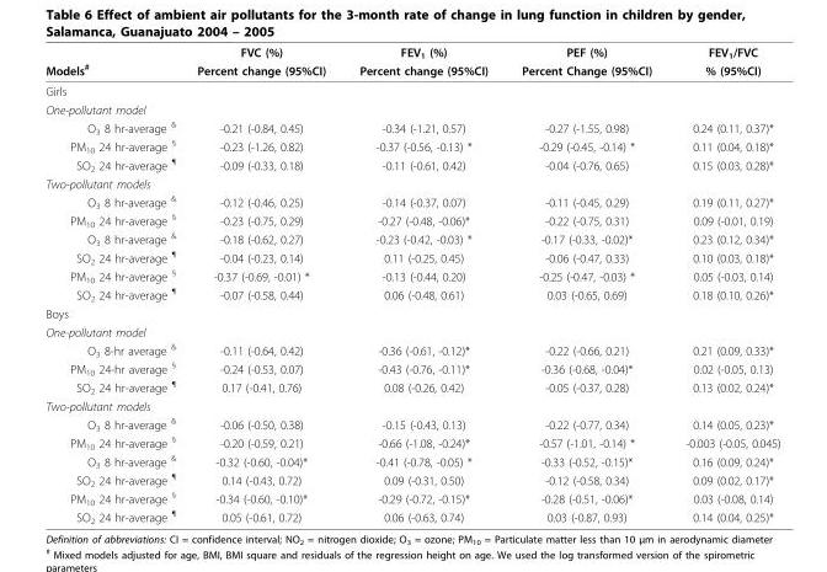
<table><thead><tr><td rowspan="2">Models<sup>#</sup></td><td rowspan="2">FVC (%) Percent change (95%CI)</td><td rowspan="2">FEV1 (%) Percent change (95%CI)</td><td rowspan="2">PEF (%) Percent Change (95%CI)</td><td rowspan="2">FEV<sub>1</sub>/FVC % (95%CI)</td></tr><tr></tr></thead><tbody><tr><td colspan="5">Girls</td></tr><tr><td colspan="5">One-pollutant model</td></tr><tr><td>O<sub>3</sub> 8 hr-average <sup>&amp;</sup></td><td>-0.21 (-0.84, 0.45)</td><td>-0.34 (-1.21, 0.57)</td><td>-0.27 (-1.55, 0.98)</td><td>0.24 (0.11, 0.37)*</td></tr><tr><td>PM<sub>10</sub> 24 hr-average <sup>§</sup></td><td>-0.23 (-1.26, 0.82)</td><td>-0.37 (-0.56, -0.13) *</td><td>-0.29 (-0.45, -0.14) *</td><td>0.11 (0.04, 0.18)*</td></tr><tr><td>SO<sub>2</sub> 24 hr-average <sup>¶</sup></td><td>-0.09 (-0.33, 0.18)</td><td>-0.11 (-0.61, 0.42)</td><td>-0.04 (-0.76, 0.65)</td><td>0.15 (0.03, 0.28)*</td></tr><tr><td colspan="5">Two-pollutant models</td></tr><tr><td>O<sub>3</sub> 8 hr-average <sup>&amp;</sup></td><td>-0.12 (-0.46, 0.25)</td><td>-0.14 (-0.37, 0.07)</td><td>-0.11 (-0.45, 0.29)</td><td>0.19 (0.11, 0.27)*</td></tr><tr><td>PM<sub>10</sub> 24 hr-average <sup>§</sup></td><td>-0.23 (-0.75, 0.29)</td><td>-0.27 (-0.48, -0.06)*</td><td>-0.22 (-0.75, 0.31)</td><td>0.09 (-0.01, 0.19)</td></tr><tr><td>O<sub>3</sub> 8 hr-average <sup>&amp;</sup></td><td>-0.18 (-0.62, 0.27)</td><td>-0.23 (-0.42, -0.03) *</td><td>-0.17 (-0.33, -0.02)*</td><td>0.23 (0.12, 0.34)*</td></tr><tr><td>SO<sub>2</sub> 24 hr-average <sup>¶</sup></td><td>-0.04 (-0.23, 0.14)</td><td>0.11 (-0.25, 0.45)</td><td>-0.06 (-0.47, 0.33)</td><td>0.10 (0.03, 0.18)*</td></tr><tr><td>PM<sub>10</sub> 24 hr-average <sup>§</sup></td><td>-0.37 (-0.69, -0.01) *</td><td>-0.13 (-0.44, 0.20)</td><td>-0.25 (-0.47, -0.03) *</td><td>0.05 (-0.03, 0.14)</td></tr><tr><td>SO<sub>2</sub> 24 hr-average <sup>¶</sup></td><td>-0.07 (-0.58, 0.44)</td><td>0.06 (-0.48, 0.61)</td><td>0.03 (-0.65, 0.69)</td><td>0.18 (0.10, 0.26)*</td></tr><tr><td colspan="5">Boys</td></tr><tr><td colspan="5">One-pollutant model</td></tr><tr><td>O<sub>3</sub> 8-hr average <sup>&amp;</sup></td><td>-0.11 (-0.64, 0.42)</td><td>-0.36 (-0.61, -0.12)*</td><td>-0.22 (-0.66, 0.21)</td><td>0.21 (0.09, 0.33)*</td></tr><tr><td>PM<sub>10</sub> 24-hr average <sup>§</sup></td><td>-0.24 (-0.53, 0.07)</td><td>-0.43 (-0.76, -0.11)*</td><td>-0.36 (-0.68, -0.04)*</td><td>0.02 (-0.05, 0.13)</td></tr><tr><td>SO<sub>2</sub> 24 hr-average <sup>¶</sup></td><td>0.17 (-0.41, 0.76)</td><td>0.08 (-0.26, 0.42)</td><td>-0.05 (-0.37, 0.28)</td><td>0.13 (0.02, 0.24)*</td></tr><tr><td colspan="5">Two-pollutant models</td></tr><tr><td>O<sub>3</sub> 8 hr-average <sup>&amp;</sup></td><td>-0.06 (-0.50, 0.38)</td><td>-0.15 (-0.43, 0.13)</td><td>-0.22 (-0.77, 0.34)</td><td>0.14 (0.05, 0.23)*</td></tr><tr><td>PM<sub>10</sub> 24 hr-average <sup>§</sup></td><td>-0.20 (-0.59, 0.21)</td><td>-0.66 (-1.08, -0.24)*</td><td>-0.57 (-1.01, -0.14) *</td><td>-0.003 (-0.05, 0.045)</td></tr><tr><td>O<sub>3</sub> 8 hr-average <sup>&amp;</sup></td><td>-0.32 (-0.60, -0.04)*</td><td>-0.41 (-0.78, -0.05) *</td><td>-0.33 (-0.52, -0.15)*</td><td>0.16 (0.09, 0.24)*</td></tr><tr><td>SO<sub>2</sub> 24 hr-average <sup>¶</sup></td><td>0.14 (-0.43, 0.72)</td><td>0.09 (-0.31, 0.50)</td><td>-0.12 (-0.58, 0.34)</td><td>0.09 (0.02, 0.17)*</td></tr><tr><td>PM<sub>10</sub> 24 hr-average <sup>§</sup></td><td>-0.34 (-0.60, -0.10)*</td><td>-0.29 (-0.72, -0.15)*</td><td>-0.28 (-0.51, -0.06)*</td><td>0.03 (-0.08, 0.14)</td></tr><tr><td>SO<sub>2</sub> 24 hr-average <sup>¶</sup></td><td>0.05 (-0.61, 0.72)</td><td>0.06 (-0.63, 0.74)</td><td>0.03 (-0.87, 0.93)</td><td>0.14 (0.04, 0.25)*</td></tr></tbody></table>